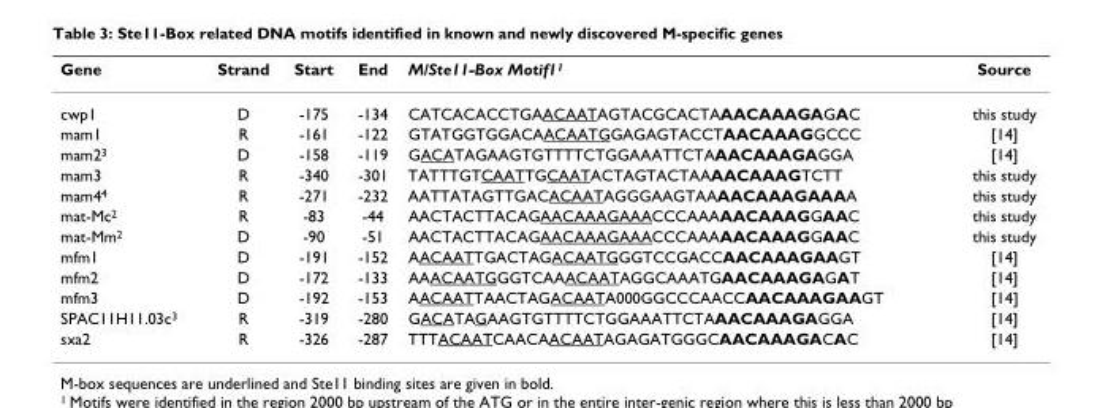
<table><thead><tr><td>Gene</td><td>Strand</td><td>Start</td><td>End</td><td>M/Ste11-Box Motif11</td><td>Source</td></tr></thead><tbody><tr><td>cwp1</td><td>D</td><td>-175</td><td>-134</td><td>CATCACACCTGAACAATAGTACGCACTAAACAAAGAGAC</td><td>this study</td></tr><tr><td>mam1</td><td>R</td><td>-161</td><td>-122</td><td>GTATGGTGGACAACAATGGAGAGTACCTAACAAAGGCCC</td><td>[14]</td></tr><tr><td>mam23</td><td>D</td><td>-158</td><td>-119</td><td>GACATAGAAGTGTTTTCTGGAAATTCTAAACAAAGAGGA</td><td>[14]</td></tr><tr><td>mam3</td><td>R</td><td>-340</td><td>-301</td><td>TATTTGTCAATTGCAATACTAGTACTAAAACAAAGTCTT</td><td>this study</td></tr><tr><td>mam44</td><td>R</td><td>-271</td><td>-232</td><td>AATTATAGTTGACACAATAGGGAAGTAAAACAAAGAAAA</td><td>this study</td></tr><tr><td>mat-Mc2</td><td>R</td><td>-83</td><td>-44</td><td>AACTACTTACAGAACAAAGAAACCCAAAAACAAAGGAAC</td><td>this study</td></tr><tr><td>mat-Mm2</td><td>D</td><td>-90</td><td>-51</td><td>AACTACTTACAGAACAAAGAAACCCAAAAACAAAGGAAC</td><td>this study</td></tr><tr><td>mfm1</td><td>D</td><td>-191</td><td>-152</td><td>AACAATTGACTAGACAATGGGTCCGACCAACAAAGAAGT</td><td>[14]</td></tr><tr><td>mfm2</td><td>D</td><td>-172</td><td>-133</td><td>AAACAATGGGTCAAACAATAGGCAAATGAACAAAGAGAT</td><td>[14]</td></tr><tr><td>mfm3</td><td>D</td><td>-192</td><td>-153</td><td>AACAATTAACTAGACAATA000GGCCCAACCAACAAAGAAGT</td><td>[14]</td></tr><tr><td>SPAC11H11.03c3</td><td>R</td><td>-319</td><td>-280</td><td>GACATAGAAGTGTTTTCTGGAAATTCTAAACAAAGAGGA</td><td>[14]</td></tr><tr><td>sxa2</td><td>R</td><td>-326</td><td>-287</td><td>TTTACAATCAACAACAATAGAGATGGGCAACAAAGACAC</td><td>[14]</td></tr></tbody></table>